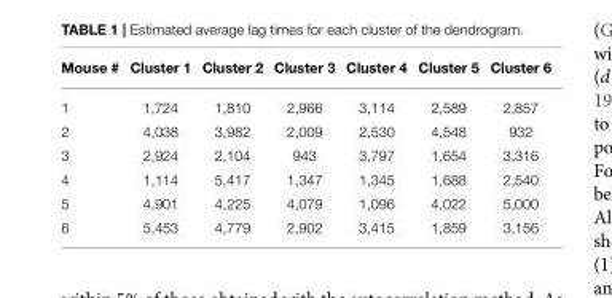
<table><thead><tr><td>Mouse #</td><td>Cluster 1</td><td>Cluster 2</td><td>Cluster 3</td><td>Cluster 4</td><td>Cluster 5</td><td>Cluster 6</td></tr></thead><tbody><tr><td>1</td><td>1,724</td><td>1,810</td><td>2,966</td><td>3,114</td><td>2,589</td><td>2,857</td></tr><tr><td>2</td><td>4,038</td><td>3,982</td><td>2,009</td><td>2,530</td><td>4,548</td><td>932</td></tr><tr><td>3</td><td>2,924</td><td>2,104</td><td>943</td><td>3,797</td><td>1,654</td><td>3,316</td></tr><tr><td>4</td><td>1,114</td><td>5,417</td><td>1,347</td><td>1,345</td><td>1,688</td><td>2,540</td></tr><tr><td>5</td><td>4,901</td><td>4,225</td><td>4,079</td><td>1,096</td><td>4,022</td><td>5,000</td></tr><tr><td>6</td><td>5,453</td><td>4,779</td><td>2,902</td><td>3,415</td><td>1,859</td><td>3,156</td></tr></tbody></table>